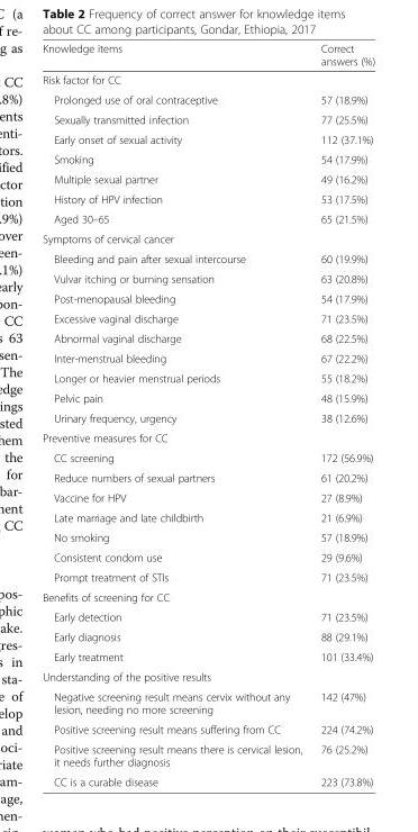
<table><thead><tr><td>Knowledge items</td><td>Correct answers (%)</td></tr></thead><tbody><tr><td colspan="2">Risk factor for CC</td></tr><tr><td>Prolonged use of oral contraceptive</td><td>57 (18.9%)</td></tr><tr><td>Sexually transmitted infection</td><td>77 (25.5%)</td></tr><tr><td>Early onset of sexual activity</td><td>112 (37.1%)</td></tr><tr><td>Smoking</td><td>54 (17.9%)</td></tr><tr><td>Multiple sexual partner</td><td>49 (16.2%)</td></tr><tr><td>History of HPV infection</td><td>53 (17.5%)</td></tr><tr><td>Aged 30–65</td><td>65 (21.5%)</td></tr><tr><td colspan="2">Symptoms of cervical cancer</td></tr><tr><td>Bleeding and pain after sexual intercourse</td><td>60 (19.9%)</td></tr><tr><td>Vulvar itching or burning sensation</td><td>63 (20.8%)</td></tr><tr><td>Post-menopausal bleeding</td><td>54 (17.9%)</td></tr><tr><td>Excessive vaginal discharge</td><td>71 (23.5%)</td></tr><tr><td>Abnormal vaginal discharge</td><td>68 (22.5%)</td></tr><tr><td>Inter-menstrual bleeding</td><td>67 (22.2%)</td></tr><tr><td>Longer or heavier menstrual periods</td><td>55 (18.2%)</td></tr><tr><td>Pelvic pain</td><td>48 (15.9%)</td></tr><tr><td>Urinary frequency, urgency</td><td>38 (12.6%)</td></tr><tr><td colspan="2">Preventive measures for CC</td></tr><tr><td>CC screening</td><td>172 (56.9%)</td></tr><tr><td>Reduce numbers of sexual partners</td><td>61 (20.2%)</td></tr><tr><td>Vaccine for HPV</td><td>27 (8.9%)</td></tr><tr><td>Late marriage and late childbirth</td><td>21 (6.9%)</td></tr><tr><td>No smoking</td><td>57 (18.9%)</td></tr><tr><td>Consistent condom use</td><td>29 (9.6%)</td></tr><tr><td>Prompt treatment of STIs</td><td>71 (23.5%)</td></tr><tr><td colspan="2">Benefits of screening for CC</td></tr><tr><td>Early detection</td><td>71 (23.5%)</td></tr><tr><td>Early diagnosis</td><td>88 (29.1%)</td></tr><tr><td>Early treatment</td><td>101 (33.4%)</td></tr><tr><td colspan="2">Understanding of the positive results</td></tr><tr><td>Negative screening result means cervix without any lesion, needing no more screening</td><td>142 (47%)</td></tr><tr><td>Positive screening result means suffering from CC</td><td>224 (74.2%)</td></tr><tr><td>Positive screening result means there is cervical lesion, it needs further diagnosis</td><td>76 (25.2%)</td></tr><tr><td>CC is a curable disease</td><td>223 (73.8%)</td></tr></tbody></table>